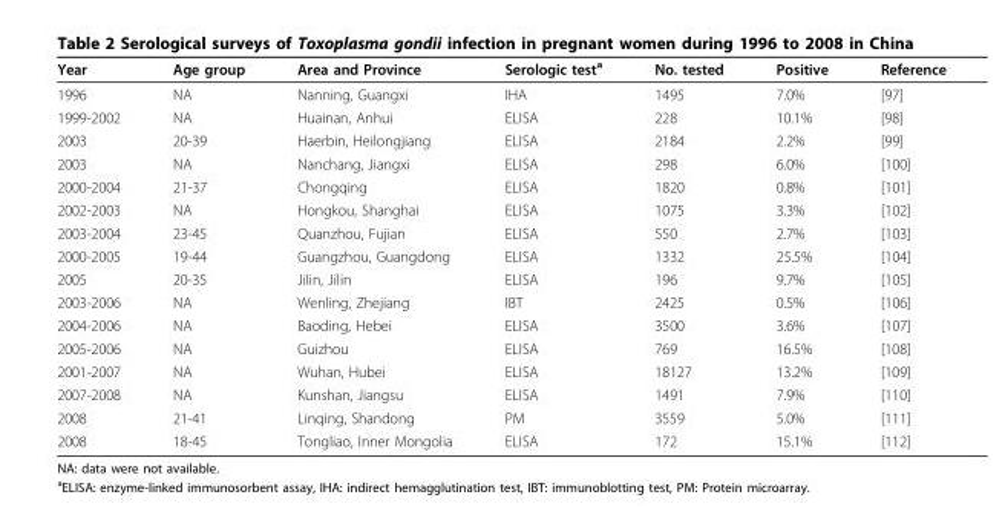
<table><thead><tr><td>Year</td><td>Age group</td><td>Area and Province</td><td>Serologic test<sup>a</sup></td><td>No. tested</td><td>Positive</td><td>Reference</td></tr></thead><tbody><tr><td>1996</td><td>NA</td><td>Nanning, Guangxi</td><td>IHA</td><td>1495</td><td>7.0%</td><td>[97]</td></tr><tr><td>1999-2002</td><td>NA</td><td>Huainan, Anhui</td><td>ELISA</td><td>228</td><td>10.1%</td><td>[98]</td></tr><tr><td>2003</td><td>20-39</td><td>Haerbin, Heilongjiang</td><td>ELISA</td><td>2184</td><td>2.2%</td><td>[99]</td></tr><tr><td>2003</td><td>NA</td><td>Nanchang, Jiangxi</td><td>ELISA</td><td>298</td><td>6.0%</td><td>[100]</td></tr><tr><td>2000-2004</td><td>21-37</td><td>Chongqing</td><td>ELISA</td><td>1820</td><td>0.8%</td><td>[101]</td></tr><tr><td>2002-2003</td><td>NA</td><td>Hongkou, Shanghai</td><td>ELISA</td><td>1075</td><td>3.3%</td><td>[102]</td></tr><tr><td>2003-2004</td><td>23-45</td><td>Quanzhou, Fujian</td><td>ELISA</td><td>550</td><td>2.7%</td><td>[103]</td></tr><tr><td>2000-2005</td><td>19-44</td><td>Guangzhou, Guangdong</td><td>ELISA</td><td>1332</td><td>25.5%</td><td>[104]</td></tr><tr><td>2005</td><td>20-35</td><td>Jilin, Jilin</td><td>ELISA</td><td>196</td><td>9.7%</td><td>[105]</td></tr><tr><td>2003-2006</td><td>NA</td><td>Wenling, Zhejiang</td><td>IBT</td><td>2425</td><td>0.5%</td><td>[106]</td></tr><tr><td>2004-2006</td><td>NA</td><td>Baoding, Hebei</td><td>ELISA</td><td>3500</td><td>3.6%</td><td>[107]</td></tr><tr><td>2005-2006</td><td>NA</td><td>Guizhou</td><td>ELISA</td><td>769</td><td>16.5%</td><td>[108]</td></tr><tr><td>2001-2007</td><td>NA</td><td>Wuhan, Hubei</td><td>ELISA</td><td>18127</td><td>13.2%</td><td>[109]</td></tr><tr><td>2007-2008</td><td>NA</td><td>Kunshan, Jiangsu</td><td>ELISA</td><td>1491</td><td>7.9%</td><td>[110]</td></tr><tr><td>2008</td><td>21-41</td><td>Linqing, Shandong</td><td>PM</td><td>3559</td><td>5.0%</td><td>[111]</td></tr><tr><td>2008</td><td>18-45</td><td>Tongliao, Inner Mongolia</td><td>ELISA</td><td>172</td><td>15.1%</td><td>[112]</td></tr></tbody></table>